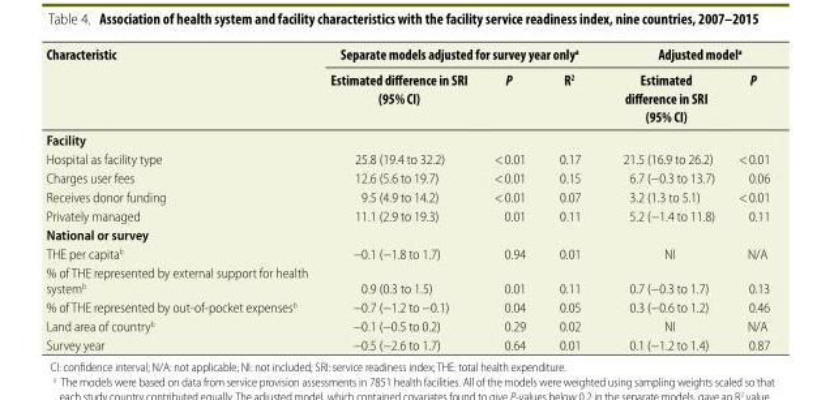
<table><thead><tr><td rowspan="2">Characteristic</td><td colspan="3">Separate models adjusted for survey year only<sup>a</sup></td><td colspan="2">Adjusted model<sup>a</sup></td></tr><tr><td>Estimated difference in SRI (95% CI)</td><td>P</td><td>R<sup>2</sup></td><td>Estimated difference in SRI (95% CI)</td><td>P</td></tr></thead><tbody><tr><td colspan="6">Facility</td></tr><tr><td>Hospital as facility type</td><td>25.8 (19.4 to 32.2)</td><td>&lt; 0.01</td><td>0.17</td><td>21.5 (16.9 to 26.2)</td><td>&lt; 0.01</td></tr><tr><td>Charges user fees</td><td>12.6 (5.6 to 19.7)</td><td>&lt; 0.01</td><td>0.15</td><td>6.7 (−0.3 to 13.7)</td><td>0.06</td></tr><tr><td>Receives donor funding</td><td>9.5 (4.9 to 14.2)</td><td>&lt; 0.01</td><td>0.07</td><td>3.2 (1.3 to 5.1)</td><td>&lt; 0.01</td></tr><tr><td>Privately managed</td><td>11.1 (2.9 to 19.3)</td><td>0.01</td><td>0.11</td><td>5.2 (−1.4 to 11.8)</td><td>0.11</td></tr><tr><td colspan="6">National or survey</td></tr><tr><td>THE per capita<sup>b</sup></td><td>−0.1 (−1.8 to 1.7)</td><td>0.94</td><td>0.01</td><td>NI</td><td>N/A</td></tr><tr><td>% of THE represented by external support for health system<sup>b</sup></td><td>0.9 (0.3 to 1.5)</td><td>0.01</td><td>0.11</td><td>0.7 (−0.3 to 1.7)</td><td>0.13</td></tr><tr><td>% of THE represented by out-of-pocket expenses<sup>b</sup></td><td>−0.7 (−1.2 to −0.1)</td><td>0.04</td><td>0.05</td><td>0.3 (−0.6 to 1.2)</td><td>0.46</td></tr><tr><td>Land area of country<sup>b</sup></td><td>−0.1 (−0.5 to 0.2)</td><td>0.29</td><td>0.02</td><td>NI</td><td>N/A</td></tr><tr><td>Survey year</td><td>−0.5 (−2.6 to 1.7)</td><td>0.64</td><td>0.01</td><td>0.1 (−1.2 to 1.4)</td><td>0.87</td></tr></tbody></table>